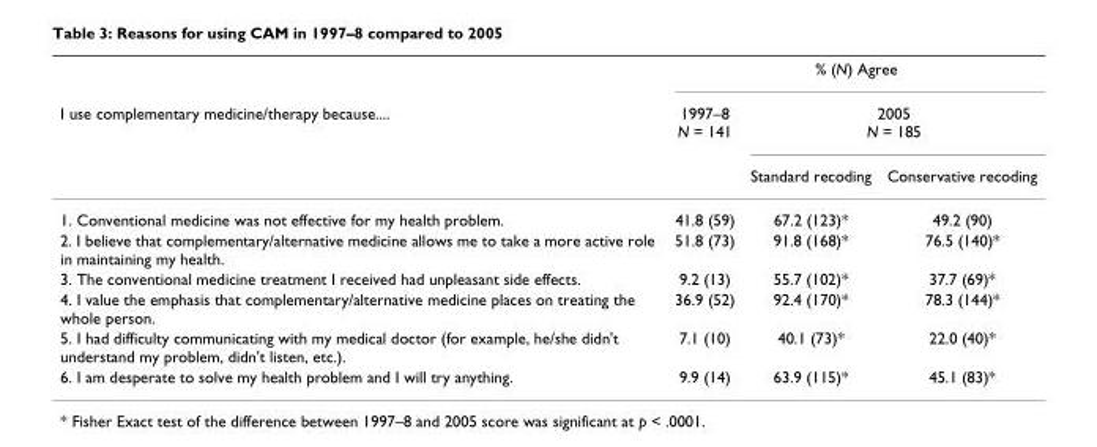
<table><thead><tr><td rowspan="3">I use complementary medicine/therapy because....</td><td colspan="3">% (N) Agree</td></tr><tr><td rowspan="2">1997–8 N = 141</td><td colspan="2">2005 N = 185</td></tr><tr><td>Standard recoding</td><td>Conservative recoding</td></tr></thead><tbody><tr><td>1. Conventional medicine was not effective for my health problem.</td><td>41.8 (59)</td><td>67.2 (123)*</td><td>49.2 (90)</td></tr><tr><td>2. I believe that complementary/alternative medicine allows me to take a more active role in maintaining my health.</td><td>51.8 (73)</td><td>91.8 (168)*</td><td>76.5 (140)*</td></tr><tr><td>3. The conventional medicine treatment I received had unpleasant side effects.</td><td>9.2 (13)</td><td>55.7 (102)*</td><td>37.7 (69)*</td></tr><tr><td>4. I value the emphasis that complementary/alternative medicine places on treating the whole person.</td><td>36.9 (52)</td><td>92.4 (170)*</td><td>78.3 (144)*</td></tr><tr><td>5. I had difficulty communicating with my medical doctor (for example, he/she didn&#x27;t understand my problem, didn&#x27;t listen, etc.).</td><td>7.1 (10)</td><td>40.1 (73)*</td><td>22.0 (40)*</td></tr><tr><td>6. I am desperate to solve my health problem and I will try anything.</td><td>9.9 (14)</td><td>63.9 (115)*</td><td>45.1 (83)*</td></tr></tbody></table>